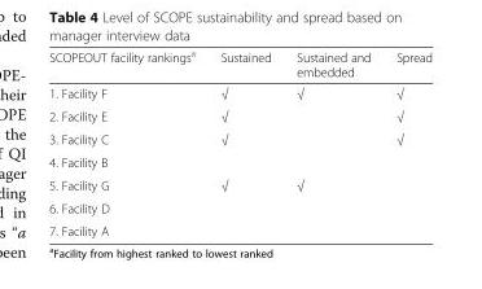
<table><thead><tr><td>SCOPEOUT facility rankings<sup>a</sup></td><td>Sustained</td><td>Sustained and embedded</td><td>Spread</td></tr></thead><tbody><tr><td>1. Facility F</td><td>√</td><td>√</td><td>√</td></tr><tr><td>2. Facility E</td><td>√</td><td></td><td>√</td></tr><tr><td>3. Facility C</td><td>√</td><td></td><td>√</td></tr><tr><td colspan="4">4. Facility B</td></tr><tr><td>5. Facility G</td><td>√</td><td>√</td><td></td></tr><tr><td colspan="4">6. Facility D</td></tr><tr><td>7. Facility A</td><td></td><td></td><td></td></tr></tbody></table>